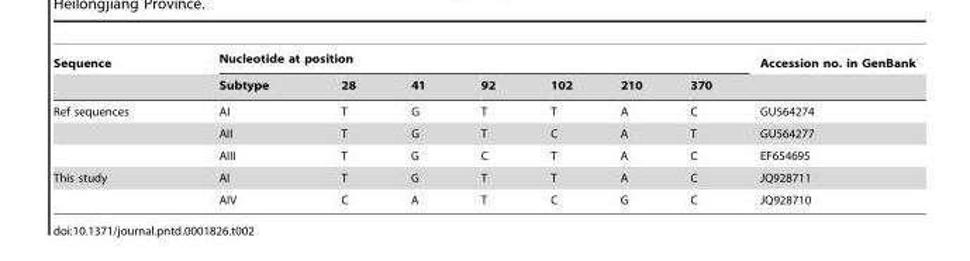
<table><thead><tr><td rowspan="2">Sequence</td><td colspan="7">Nucleotide at position</td><td rowspan="2">Accession no. in GenBank</td></tr><tr><td>Subtype</td><td>28</td><td>41</td><td>92</td><td>102</td><td>210</td><td>370</td></tr></thead><tbody><tr><td rowspan="3">Ref sequences</td><td>AI</td><td>T</td><td>G</td><td>T</td><td>T</td><td>A</td><td>C</td><td>GU564274</td></tr><tr><td>AII</td><td>T</td><td>G</td><td>T</td><td>C</td><td>A</td><td>T</td><td>GU564277</td></tr><tr><td>AIII</td><td>T</td><td>G</td><td>C</td><td>T</td><td>A</td><td>C</td><td>EF654695</td></tr><tr><td rowspan="2">This study</td><td>AI</td><td>T</td><td>G</td><td>T</td><td>T</td><td>A</td><td>C</td><td>JQ928711</td></tr><tr><td>AIV</td><td>C</td><td>A</td><td>T</td><td>C</td><td>G</td><td>C</td><td>JQ928710</td></tr></tbody></table>